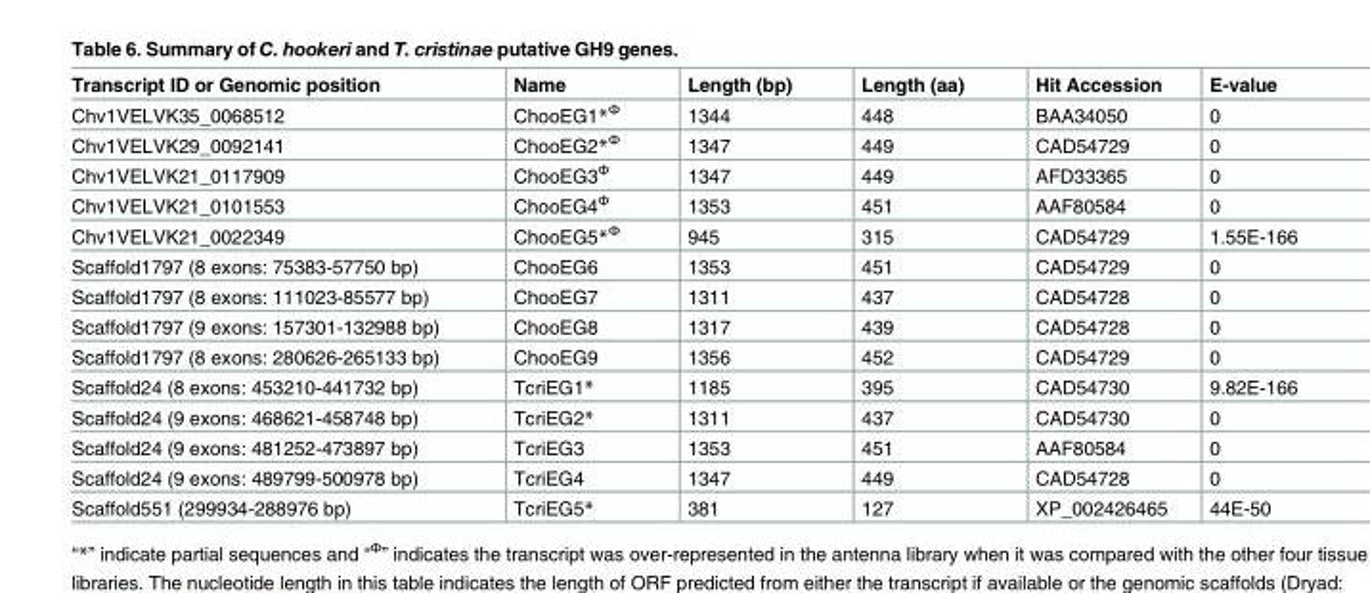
<table><thead><tr><td>Transcript ID or Genomic position</td><td>Name</td><td>Length (bp)</td><td>Length (aa)</td><td>Hit Accession</td><td>E-value</td></tr></thead><tbody><tr><td>Chv1VELVK35_0068512</td><td>ChooEG1*<sup>Φ</sup></td><td>1344</td><td>448</td><td>BAA34050</td><td>0</td></tr><tr><td>Chv1VELVK29_0092141</td><td>ChooEG2*<sup>Φ</sup></td><td>1347</td><td>449</td><td>CAD54729</td><td>0</td></tr><tr><td>Chv1VELVK21_0117909</td><td>ChooEG3<sup>Φ</sup></td><td>1347</td><td>449</td><td>AFD33365</td><td>0</td></tr><tr><td>Chv1VELVK21_0101553</td><td>ChooEG4<sup>Φ</sup></td><td>1353</td><td>451</td><td>AAF80584</td><td>0</td></tr><tr><td>Chv1VELVK21_0022349</td><td>ChooEG5*<sup>Φ</sup></td><td>945</td><td>315</td><td>CAD54729</td><td>1.55E-166</td></tr><tr><td>Scaffold1797 (8 exons: 75383-57750 bp)</td><td>ChooEG6</td><td>1353</td><td>451</td><td>CAD54729</td><td>0</td></tr><tr><td>Scaffold1797 (8 exons: 111023-85577 bp)</td><td>ChooEG7</td><td>1311</td><td>437</td><td>CAD54728</td><td>0</td></tr><tr><td>Scaffold1797 (9 exons: 157301-132988 bp)</td><td>ChooEG8</td><td>1317</td><td>439</td><td>CAD54728</td><td>0</td></tr><tr><td>Scaffold1797 (8 exons: 280626-265133 bp)</td><td>ChooEG9</td><td>1356</td><td>452</td><td>CAD54729</td><td>0</td></tr><tr><td>Scaffold24 (8 exons: 453210-441732 bp)</td><td>TcriEG1*</td><td>1185</td><td>395</td><td>CAD54730</td><td>9.82E-166</td></tr><tr><td>Scaffold24 (9 exons: 468621-458748 bp)</td><td>TcriEG2*</td><td>1311</td><td>437</td><td>CAD54730</td><td>0</td></tr><tr><td>Scaffold24 (9 exons: 481252-473897 bp)</td><td>TcriEG3</td><td>1353</td><td>451</td><td>AAF80584</td><td>0</td></tr><tr><td>Scaffold24 (9 exons: 489799-500978 bp)</td><td>TcriEG4</td><td>1347</td><td>449</td><td>CAD54728</td><td>0</td></tr><tr><td>Scaffold551 (299934-288976 bp)</td><td>TcriEG5*</td><td>381</td><td>127</td><td>XP_002426465</td><td>44E-50</td></tr></tbody></table>